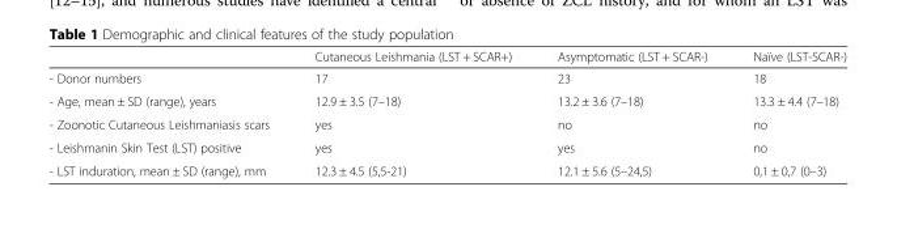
<table><thead><tr><td></td><td>Cutaneous Leishmania (LST + SCAR+)</td><td>Asymptomatic (LST + SCAR-)</td><td>Naïve (LST-SCAR-)</td></tr></thead><tbody><tr><td>- Donor numbers</td><td>17</td><td>23</td><td>18</td></tr><tr><td>- Age, mean ± SD (range), years</td><td>12.9 ± 3.5 (7–18)</td><td>13.2 ± 3.6 (7–18)</td><td>13.3 ± 4.4 (7–18)</td></tr><tr><td>- Zoonotic Cutaneous Leishmaniasis scars</td><td>yes</td><td>no</td><td>no</td></tr><tr><td>- Leishmanin Skin Test (LST) positive</td><td>yes</td><td>yes</td><td>no</td></tr><tr><td>- LST induration, mean ± SD (range), mm</td><td>12.3 ± 4.5 (5,5-21)</td><td>12.1 ± 5.6 (5–24,5)</td><td>0,1 ± 0,7 (0–3)</td></tr></tbody></table>